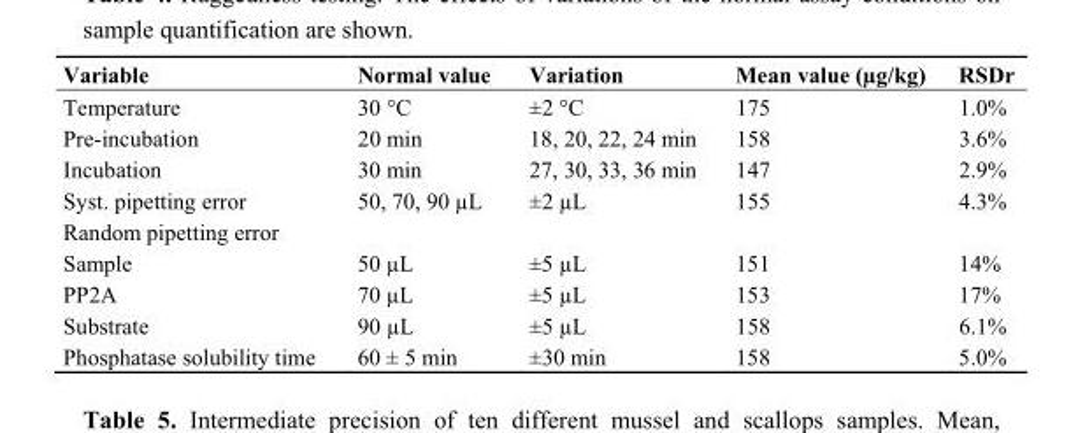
<table><thead><tr><td>Variable</td><td>Normal value</td><td>Variation</td><td>Mean value (µg/kg)</td><td>RSDr</td></tr></thead><tbody><tr><td>Temperature</td><td>30 °C</td><td>±2 °C</td><td>175</td><td>1.0%</td></tr><tr><td>Pre-incubation</td><td>20 min</td><td>18, 20, 22, 24 min</td><td>158</td><td>3.6%</td></tr><tr><td>Incubation</td><td>30 min</td><td>27, 30, 33, 36 min</td><td>147</td><td>2.9%</td></tr><tr><td>Syst. pipetting error</td><td>50, 70, 90 µL</td><td>±2 µL</td><td>155</td><td>4.3%</td></tr><tr><td colspan="5">Random pipetting error</td></tr><tr><td>Sample</td><td>50 µL</td><td>±5 µL</td><td>151</td><td>14%</td></tr><tr><td>PP2A</td><td>70 µL</td><td>±5 µL</td><td>153</td><td>17%</td></tr><tr><td>Substrate</td><td>90 µL</td><td>±5 µL</td><td>158</td><td>6.1%</td></tr><tr><td>Phosphatase solubility time</td><td>60 ± 5 min</td><td>±30 min</td><td>158</td><td>5.0%</td></tr></tbody></table>